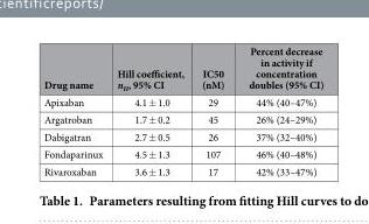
<table><thead><tr><td>Drug name</td><td>Hill coefficient, n<sub>H</sub>, 95% CI</td><td>IC50 (nM)</td><td>Percent decrease in activity if concentration doubles (95% CI)</td></tr></thead><tbody><tr><td>Apixaban</td><td>4.1 ± 1.0</td><td>29</td><td>44% (40–47%)</td></tr><tr><td>Argatroban</td><td>1.7 ± 0.2</td><td>45</td><td>26% (24–29%)</td></tr><tr><td>Dabigatran</td><td>2.7 ± 0.5</td><td>26</td><td>37% (32–40%)</td></tr><tr><td>Fondaparinux</td><td>4.5 ± 1.3</td><td>107</td><td>46% (40–48%)</td></tr><tr><td>Rivaroxaban</td><td>3.6 ± 1.3</td><td>17</td><td>42% (33–47%)</td></tr></tbody></table>